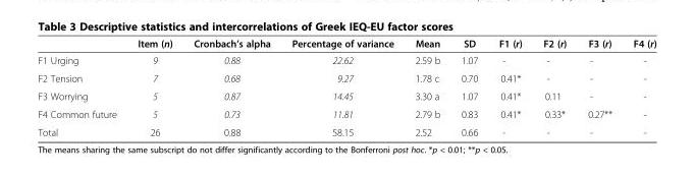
<table><thead><tr><td></td><td>Item (n)</td><td>Cronbach’s alpha</td><td>Percentage of variance</td><td>Mean</td><td>SD</td><td>F1 (r)</td><td>F2 (r)</td><td>F3 (r)</td><td>F4 (r)</td></tr></thead><tbody><tr><td>F1 Urging</td><td>9</td><td>0.88</td><td>22.62</td><td>2.59 b</td><td>1.07</td><td>-</td><td>-</td><td>-</td><td>-</td></tr><tr><td>F2 Tension</td><td>7</td><td>0.68</td><td>9.27</td><td>1.78 c</td><td>0.70</td><td>0.41*</td><td>-</td><td>-</td><td>-</td></tr><tr><td>F3 Worrying</td><td>5</td><td>0.87</td><td>14.45</td><td>3.30 a</td><td>1.07</td><td>0.41*</td><td>0.11</td><td>-</td><td>-</td></tr><tr><td>F4 Common future</td><td>5</td><td>0.73</td><td>11.81</td><td>2.79 b</td><td>0.83</td><td>0.41*</td><td>0.33*</td><td>0.27**</td><td>-</td></tr><tr><td>Total</td><td>26</td><td>0.88</td><td>58.15</td><td>2.52</td><td>0.66</td><td>-</td><td>-</td><td>-</td><td>-</td></tr></tbody></table>